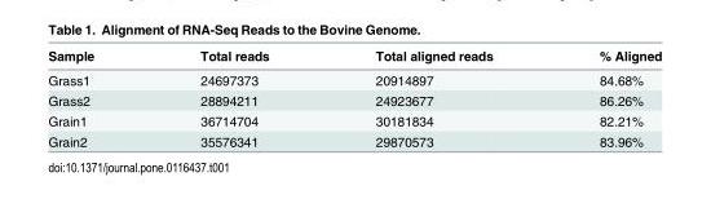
<table><thead><tr><td>Sample</td><td>Total reads</td><td>Total aligned reads</td><td>% Aligned</td></tr></thead><tbody><tr><td>Grass1</td><td>24697373</td><td>20914897</td><td>84.68%</td></tr><tr><td>Grass2</td><td>28894211</td><td>24923677</td><td>86.26%</td></tr><tr><td>Grain1</td><td>36714704</td><td>30181834</td><td>82.21%</td></tr><tr><td>Grain2</td><td>35576341</td><td>29870573</td><td>83.96%</td></tr></tbody></table>